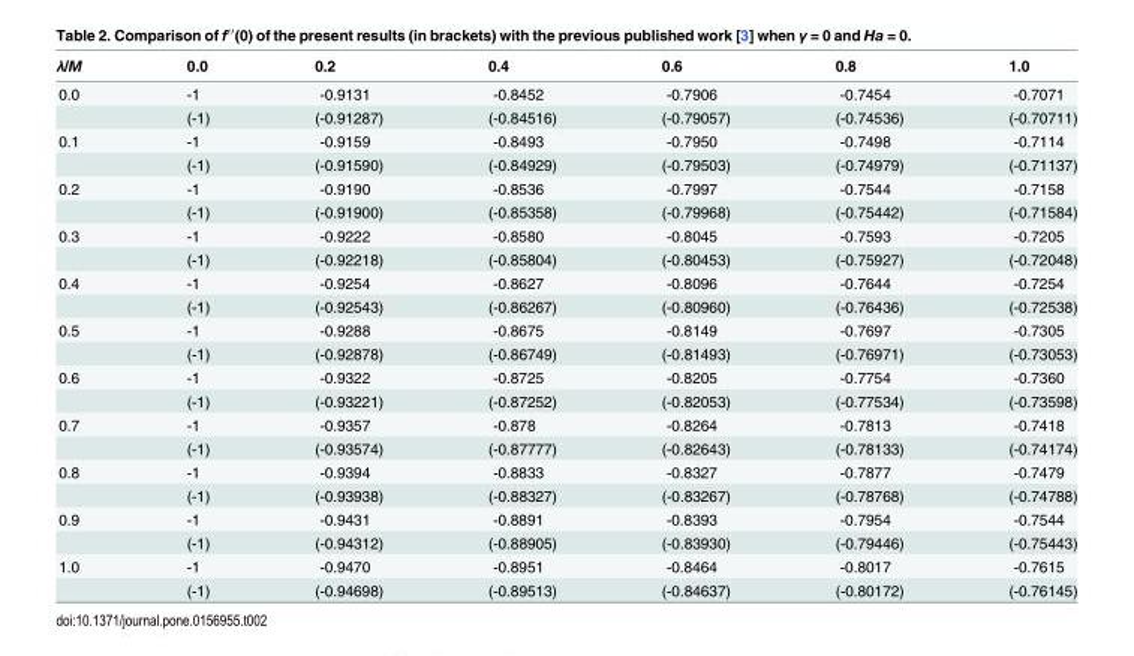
<table><thead><tr><td>λ/M</td><td>0.0</td><td>0.2</td><td>0.4</td><td>0.6</td><td>0.8</td><td>1.0</td></tr></thead><tbody><tr><td rowspan="2">0.0</td><td>-1</td><td>-0.9131</td><td>-0.8452</td><td>-0.7906</td><td>-0.7454</td><td>-0.7071</td></tr><tr><td>(-1)</td><td>(-0.91287)</td><td>(-0.84516)</td><td>(-0.79057)</td><td>(-0.74536)</td><td>(-0.70711)</td></tr><tr><td rowspan="2">0.1</td><td>-1</td><td>-0.9159</td><td>-0.8493</td><td>-0.7950</td><td>-0.7498</td><td>-0.7114</td></tr><tr><td>(-1)</td><td>(-0.91590)</td><td>(-0.84929)</td><td>(-0.79503)</td><td>(-0.74979)</td><td>(-0.71137)</td></tr><tr><td rowspan="2">0.2</td><td>-1</td><td>-0.9190</td><td>-0.8536</td><td>-0.7997</td><td>-0.7544</td><td>-0.7158</td></tr><tr><td>(-1)</td><td>(-0.91900)</td><td>(-0.85358)</td><td>(-0.79968)</td><td>(-0.75442)</td><td>(-0.71584)</td></tr><tr><td rowspan="2">0.3</td><td>-1</td><td>-0.9222</td><td>-0.8580</td><td>-0.8045</td><td>-0.7593</td><td>-0.7205</td></tr><tr><td>(-1)</td><td>(-0.92218)</td><td>(-0.85804)</td><td>(-0.80453)</td><td>(-0.75927)</td><td>(-0.72048)</td></tr><tr><td rowspan="2">0.4</td><td>-1</td><td>-0.9254</td><td>-0.8627</td><td>-0.8096</td><td>-0.7644</td><td>-0.7254</td></tr><tr><td>(-1)</td><td>(-0.92543)</td><td>(-0.86267)</td><td>(-0.80960)</td><td>(-0.76436)</td><td>(-0.72538)</td></tr><tr><td rowspan="2">0.5</td><td>-1</td><td>-0.9288</td><td>-0.8675</td><td>-0.8149</td><td>-0.7697</td><td>-0.7305</td></tr><tr><td>(-1)</td><td>(-0.92878)</td><td>(-0.86749)</td><td>(-0.81493)</td><td>(-0.76971)</td><td>(-0.73053)</td></tr><tr><td rowspan="2">0.6</td><td>-1</td><td>-0.9322</td><td>-0.8725</td><td>-0.8205</td><td>-0.7754</td><td>-0.7360</td></tr><tr><td>(-1)</td><td>(-0.93221)</td><td>(-0.87252)</td><td>(-0.82053)</td><td>(-0.77534)</td><td>(-0.73598)</td></tr><tr><td rowspan="2">0.7</td><td>-1</td><td>-0.9357</td><td>-0.878</td><td>-0.8264</td><td>-0.7813</td><td>-0.7418</td></tr><tr><td>(-1)</td><td>(-0.93574)</td><td>(-0.87777)</td><td>(-0.82643)</td><td>(-0.78133)</td><td>(-0.74174)</td></tr><tr><td rowspan="2">0.8</td><td>-1</td><td>-0.9394</td><td>-0.8833</td><td>-0.8327</td><td>-0.7877</td><td>-0.7479</td></tr><tr><td>(-1)</td><td>(-0.93938)</td><td>(-0.88327)</td><td>(-0.83267)</td><td>(-0.78768)</td><td>(-0.74788)</td></tr><tr><td rowspan="2">0.9</td><td>-1</td><td>-0.9431</td><td>-0.8891</td><td>-0.8393</td><td>-0.7954</td><td>-0.7544</td></tr><tr><td>(-1)</td><td>(-0.94312)</td><td>(-0.88905)</td><td>(-0.83930)</td><td>(-0.79446)</td><td>(-0.75443)</td></tr><tr><td rowspan="2">1.0</td><td>-1</td><td>-0.9470</td><td>-0.8951</td><td>-0.8464</td><td>-0.8017</td><td>-0.7615</td></tr><tr><td>(-1)</td><td>(-0.94698)</td><td>(-0.89513)</td><td>(-0.84637)</td><td>(-0.80172)</td><td>(-0.76145)</td></tr></tbody></table>